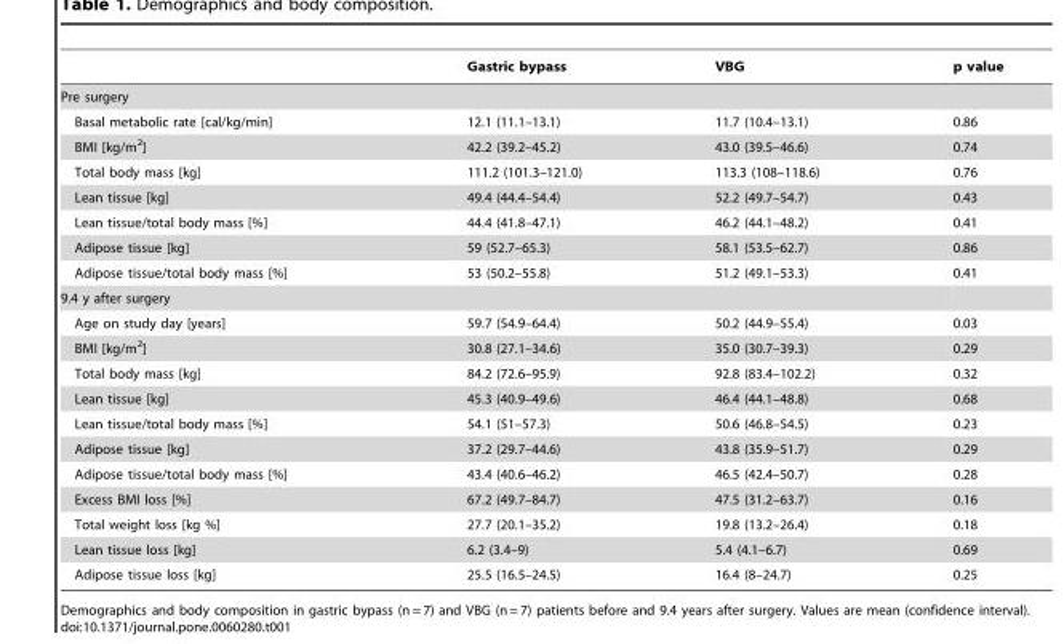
<table><thead><tr><td></td><td>Gastric bypass</td><td>VBG</td><td>p value</td></tr></thead><tbody><tr><td colspan="4">Pre surgery</td></tr><tr><td>Basal metabolic rate [cal/kg/min]</td><td>12.1 (11.1–13.1)</td><td>11.7 (10.4–13.1)</td><td>0.86</td></tr><tr><td>BMI [kg/m<sup>2</sup>]</td><td>42.2 (39.2–45.2)</td><td>43.0 (39.5–46.6)</td><td>0.74</td></tr><tr><td>Total body mass [kg]</td><td>111.2 (101.3–121.0)</td><td>113.3 (108–118.6)</td><td>0.76</td></tr><tr><td>Lean tissue [kg]</td><td>49.4 (44.4–54.4)</td><td>52.2 (49.7–54.7)</td><td>0.43</td></tr><tr><td>Lean tissue/total body mass [%]</td><td>44.4 (41.8–47.1)</td><td>46.2 (44.1–48.2)</td><td>0.41</td></tr><tr><td>Adipose tissue [kg]</td><td>59 (52.7–65.3)</td><td>58.1 (53.5–62.7)</td><td>0.86</td></tr><tr><td>Adipose tissue/total body mass [%]</td><td>53 (50.2–55.8)</td><td>51.2 (49.1–53.3)</td><td>0.41</td></tr><tr><td colspan="4">9.4 y after surgery</td></tr><tr><td>Age on study day [years]</td><td>59.7 (54.9–64.4)</td><td>50.2 (44.9–55.4)</td><td>0.03</td></tr><tr><td>BMI [kg/m<sup>2</sup>]</td><td>30.8 (27.1–34.6)</td><td>35.0 (30.7–39.3)</td><td>0.29</td></tr><tr><td>Total body mass [kg]</td><td>84.2 (72.6–95.9)</td><td>92.8 (83.4–102.2)</td><td>0.32</td></tr><tr><td>Lean tissue [kg]</td><td>45.3 (40.9–49.6)</td><td>46.4 (44.1–48.8)</td><td>0.68</td></tr><tr><td>Lean tissue/total body mass [%]</td><td>54.1 (51–57.3)</td><td>50.6 (46.8–54.5)</td><td>0.23</td></tr><tr><td>Adipose tissue [kg]</td><td>37.2 (29.7–44.6)</td><td>43.8 (35.9–51.7)</td><td>0.29</td></tr><tr><td>Adipose tissue/total body mass [%]</td><td>43.4 (40.6–46.2)</td><td>46.5 (42.4–50.7)</td><td>0.28</td></tr><tr><td>Excess BMI loss [%]</td><td>67.2 (49.7–84.7)</td><td>47.5 (31.2–63.7)</td><td>0.16</td></tr><tr><td>Total weight loss [kg %]</td><td>27.7 (20.1–35.2)</td><td>19.8 (13.2–26.4)</td><td>0.18</td></tr><tr><td>Lean tissue loss [kg]</td><td>6.2 (3.4–9)</td><td>5.4 (4.1–6.7)</td><td>0.69</td></tr><tr><td>Adipose tissue loss [kg]</td><td>25.5 (16.5–24.5)</td><td>16.4 (8–24.7)</td><td>0.25</td></tr></tbody></table>